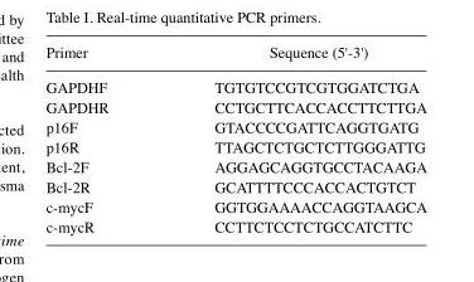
<table><thead><tr><td>Primer</td><td>Sequence (5&#x27;-3&#x27;)</td></tr></thead><tbody><tr><td>GAPDHF</td><td>TGTGTCCGTCGTGGATCTGA</td></tr><tr><td>GAPDHR</td><td>CCTGCTTCACCACCTTCTTGA</td></tr><tr><td>p16F</td><td>GTACCCCGATTCAGGTGATG</td></tr><tr><td>p16R</td><td>TTAGCTCTGCTCTTGGGATTG</td></tr><tr><td>Bcl-2F</td><td>AGGAGCAGGTGCCTACAAGA</td></tr><tr><td>Bcl-2R</td><td>GCATTTTCCCACCACTGTCT</td></tr><tr><td>c-mycF</td><td>GGTGGAAAACCAGGTAAGCA</td></tr><tr><td>c-mycR</td><td>CCTTCTCCTCTGCCATCTTC</td></tr></tbody></table>